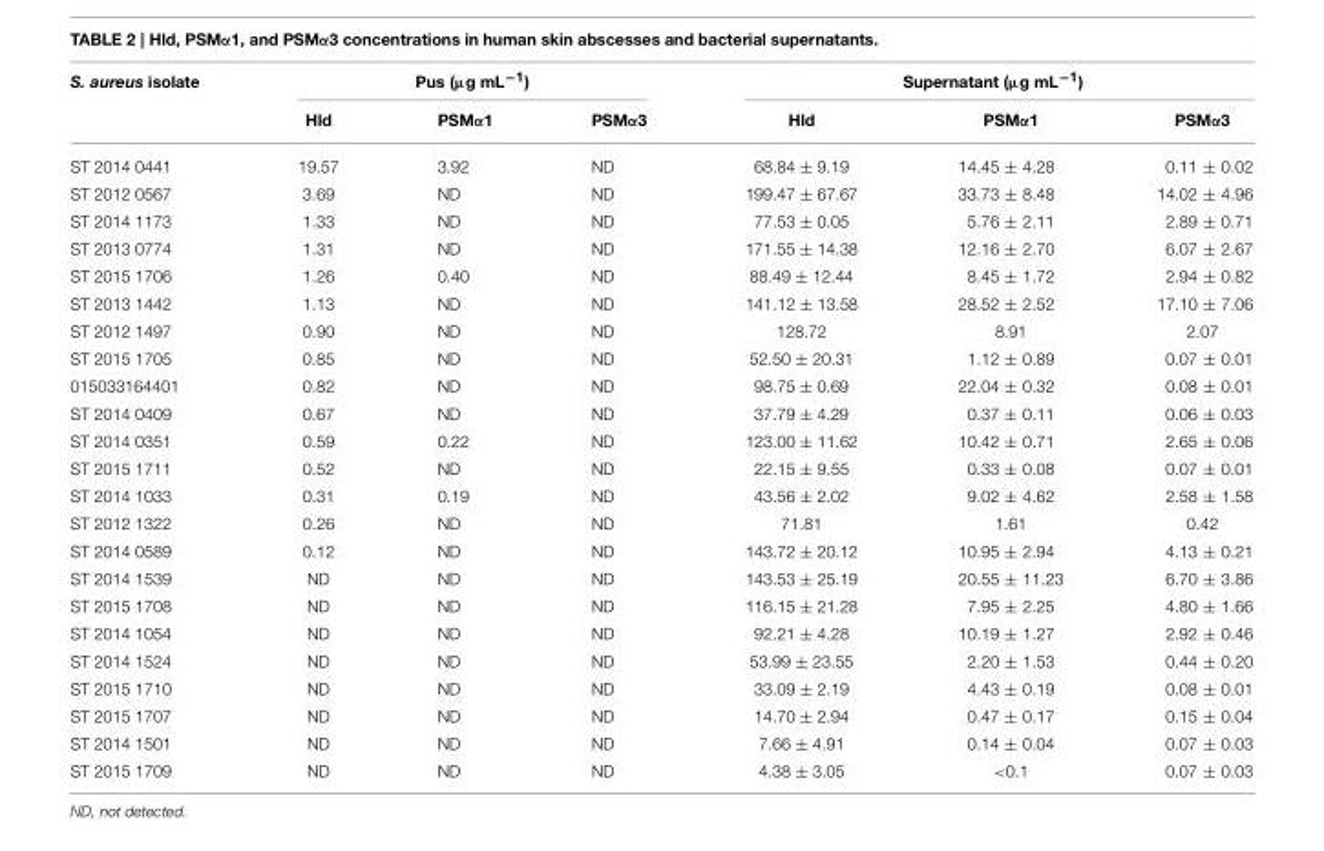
<table><thead><tr><td rowspan="2">S. aureus isolate</td><td colspan="3">Pus (µg mL<sup>−1</sup>)</td><td colspan="3">Supernatant (µg mL<sup>−1</sup>)</td></tr><tr><td>Hld</td><td>PSMα1</td><td>PSMα3</td><td>Hld</td><td>PSMα1</td><td>PSMα3</td></tr></thead><tbody><tr><td>ST 2014 0441</td><td>19.57</td><td>3.92</td><td>ND</td><td>68.84 ± 9.19</td><td>14.45 ± 4.28</td><td>0.11 ± 0.02</td></tr><tr><td>ST 2012 0567</td><td>3.69</td><td>ND</td><td>ND</td><td>199.47 ± 67.67</td><td>33.73 ± 8.48</td><td>14.02 ± 4.96</td></tr><tr><td>ST 2014 1173</td><td>1.33</td><td>ND</td><td>ND</td><td>77.53 ± 0.05</td><td>5.76 ± 2.11</td><td>2.89 ± 0.71</td></tr><tr><td>ST 2013 0774</td><td>1.31</td><td>ND</td><td>ND</td><td>171.55 ± 14.38</td><td>12.16 ± 2.70</td><td>6.07 ± 2.67</td></tr><tr><td>ST 2015 1706</td><td>1.26</td><td>0.40</td><td>ND</td><td>88.49 ± 12.44</td><td>8.45 ± 1.72</td><td>2.94 ± 0.82</td></tr><tr><td>ST 2013 1442</td><td>1.13</td><td>ND</td><td>ND</td><td>141.12 ± 13.58</td><td>28.52 ± 2.52</td><td>17.10 ± 7.06</td></tr><tr><td>ST 2012 1497</td><td>0.90</td><td>ND</td><td>ND</td><td>128.72</td><td>8.91</td><td>2.07</td></tr><tr><td>ST 2015 1705</td><td>0.85</td><td>ND</td><td>ND</td><td>52.50 ± 20.31</td><td>1.12 ± 0.89</td><td>0.07 ± 0.01</td></tr><tr><td>015033164401</td><td>0.82</td><td>ND</td><td>ND</td><td>98.75 ± 0.69</td><td>22.04 ± 0.32</td><td>0.08 ± 0.01</td></tr><tr><td>ST 2014 0409</td><td>0.67</td><td>ND</td><td>ND</td><td>37.79 ± 4.29</td><td>0.37 ± 0.11</td><td>0.06 ± 0.03</td></tr><tr><td>ST 2014 0351</td><td>0.59</td><td>0.22</td><td>ND</td><td>123.00 ± 11.62</td><td>10.42 ± 0.71</td><td>2.65 ± 0.06</td></tr><tr><td>ST 2015 1711</td><td>0.52</td><td>ND</td><td>ND</td><td>22.15 ± 9.55</td><td>0.33 ± 0.08</td><td>0.07 ± 0.01</td></tr><tr><td>ST 2014 1033</td><td>0.31</td><td>0.19</td><td>ND</td><td>43.56 ± 2.02</td><td>9.02 ± 4.62</td><td>2.58 ± 1.58</td></tr><tr><td>ST 2012 1322</td><td>0.26</td><td>ND</td><td>ND</td><td>71.81</td><td>1.61</td><td>0.42</td></tr><tr><td>ST 2014 0589</td><td>0.12</td><td>ND</td><td>ND</td><td>143.72 ± 20.12</td><td>10.95 ± 2.94</td><td>4.13 ± 0.21</td></tr><tr><td>ST 2014 1539</td><td>ND</td><td>ND</td><td>ND</td><td>143.53 ± 25.19</td><td>20.55 ± 11.23</td><td>6.70 ± 3.86</td></tr><tr><td>ST 2015 1708</td><td>ND</td><td>ND</td><td>ND</td><td>116.15 ± 21.28</td><td>7.95 ± 2.25</td><td>4.80 ± 1.66</td></tr><tr><td>ST 2014 1054</td><td>ND</td><td>ND</td><td>ND</td><td>92.21 ± 4.28</td><td>10.19 ± 1.27</td><td>2.92 ± 0.46</td></tr><tr><td>ST 2014 1524</td><td>ND</td><td>ND</td><td>ND</td><td>53.99 ± 23.55</td><td>2.20 ± 1.53</td><td>0.44 ± 0.20</td></tr><tr><td>ST 2015 1710</td><td>ND</td><td>ND</td><td>ND</td><td>33.09 ± 2.19</td><td>4.43 ± 0.19</td><td>0.08 ± 0.01</td></tr><tr><td>ST 2015 1707</td><td>ND</td><td>ND</td><td>ND</td><td>14.70 ± 2.94</td><td>0.47 ± 0.17</td><td>0.15 ± 0.04</td></tr><tr><td>ST 2014 1501</td><td>ND</td><td>ND</td><td>ND</td><td>7.66 ± 4.91</td><td>0.14 ± 0.04</td><td>0.07 ± 0.03</td></tr><tr><td>ST 2015 1709</td><td>ND</td><td>ND</td><td>ND</td><td>4.38 ± 3.05</td><td>&lt;0.1</td><td>0.07 ± 0.03</td></tr></tbody></table>